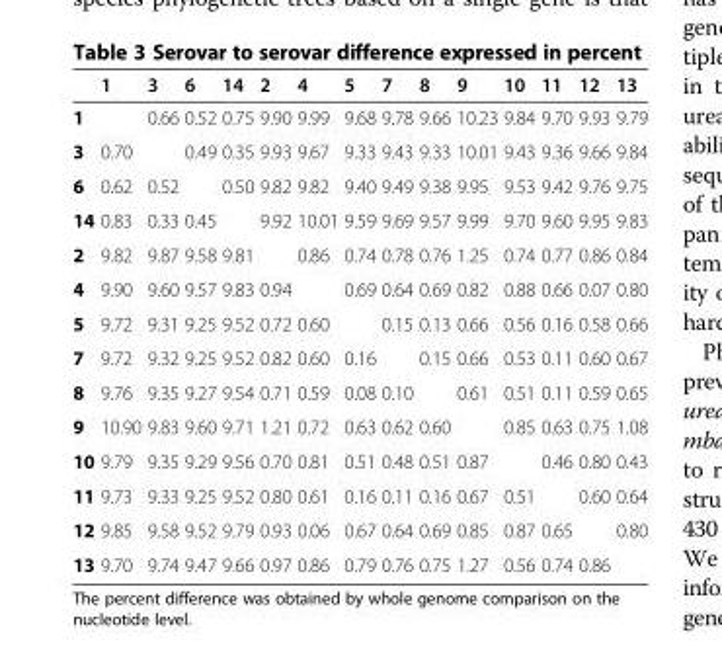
<table><thead><tr><td></td><td>1</td><td>3</td><td>6</td><td>14</td><td>2</td><td>4</td><td>5</td><td>7</td><td>8</td><td>9</td><td>10</td><td>11</td><td>12</td><td>13</td></tr></thead><tbody><tr><td>1</td><td></td><td>0.66</td><td>0.52</td><td>0.75</td><td>9.90</td><td>9.99</td><td>9.68</td><td>9.78</td><td>9.66</td><td>10.23</td><td>9.84</td><td>9.70</td><td>9.93</td><td>9.79</td></tr><tr><td>3</td><td>0.70</td><td></td><td>0.49</td><td>0.35</td><td>9.93</td><td>9.67</td><td>9.33</td><td>9.43</td><td>9.33</td><td>10.01</td><td>9.43</td><td>9.36</td><td>9.66</td><td>9.84</td></tr><tr><td>6</td><td>0.62</td><td>0.52</td><td></td><td>0.50</td><td>9.82</td><td>9.82</td><td>9.40</td><td>9.49</td><td>9.38</td><td>9.95</td><td>9.53</td><td>9.42</td><td>9.76</td><td>9.75</td></tr><tr><td>14</td><td>0.83</td><td>0.33</td><td>0.45</td><td></td><td>9.92</td><td>10.01</td><td>9.59</td><td>9.69</td><td>9.57</td><td>9.99</td><td>9.70</td><td>9.60</td><td>9.95</td><td>9.83</td></tr><tr><td>2</td><td>9.82</td><td>9.87</td><td>9.58</td><td>9.81</td><td></td><td>0.86</td><td>0.74</td><td>0.78</td><td>0.76</td><td>1.25</td><td>0.74</td><td>0.77</td><td>0.86</td><td>0.84</td></tr><tr><td>4</td><td>9.90</td><td>9.60</td><td>9.57</td><td>9.83</td><td>0.94</td><td></td><td>0.69</td><td>0.64</td><td>0.69</td><td>0.82</td><td>0.88</td><td>0.66</td><td>0.07</td><td>0.80</td></tr><tr><td>5</td><td>9.72</td><td>9.31</td><td>9.25</td><td>9.52</td><td>0.72</td><td>0.60</td><td></td><td>0.15</td><td>0.13</td><td>0.66</td><td>0.56</td><td>0.16</td><td>0.58</td><td>0.66</td></tr><tr><td>7</td><td>9.72</td><td>9.32</td><td>9.25</td><td>9.52</td><td>0.82</td><td>0.60</td><td>0.16</td><td></td><td>0.15</td><td>0.66</td><td>0.53</td><td>0.11</td><td>0.60</td><td>0.67</td></tr><tr><td>8</td><td>9.76</td><td>9.35</td><td>9.27</td><td>9.54</td><td>0.71</td><td>0.59</td><td>0.08</td><td>0.10</td><td></td><td>0.61</td><td>0.51</td><td>0.11</td><td>0.59</td><td>0.65</td></tr><tr><td>9</td><td>10.90</td><td>9.83</td><td>9.60</td><td>9.71</td><td>1.21</td><td>0.72</td><td>0.63</td><td>0.62</td><td>0.60</td><td></td><td>0.85</td><td>0.63</td><td>0.75</td><td>1.08</td></tr><tr><td>10</td><td>9.79</td><td>9.35</td><td>9.29</td><td>9.56</td><td>0.70</td><td>0.81</td><td>0.51</td><td>0.48</td><td>0.51</td><td>0.87</td><td></td><td>0.46</td><td>0.80</td><td>0.43</td></tr><tr><td>11</td><td>9.73</td><td>9.33</td><td>9.25</td><td>9.52</td><td>0.80</td><td>0.61</td><td>0.16</td><td>0.11</td><td>0.16</td><td>0.67</td><td>0.51</td><td></td><td>0.60</td><td>0.64</td></tr><tr><td>12</td><td>9.85</td><td>9.58</td><td>9.52</td><td>9.79</td><td>0.93</td><td>0.06</td><td>0.67</td><td>0.64</td><td>0.69</td><td>0.85</td><td>0.87</td><td>0.65</td><td></td><td>0.80</td></tr><tr><td>13</td><td>9.70</td><td>9.74</td><td>9.47</td><td>9.66</td><td>0.97</td><td>0.86</td><td>0.79</td><td>0.76</td><td>0.75</td><td>1.27</td><td>0.56</td><td>0.74</td><td>0.86</td><td></td></tr></tbody></table>